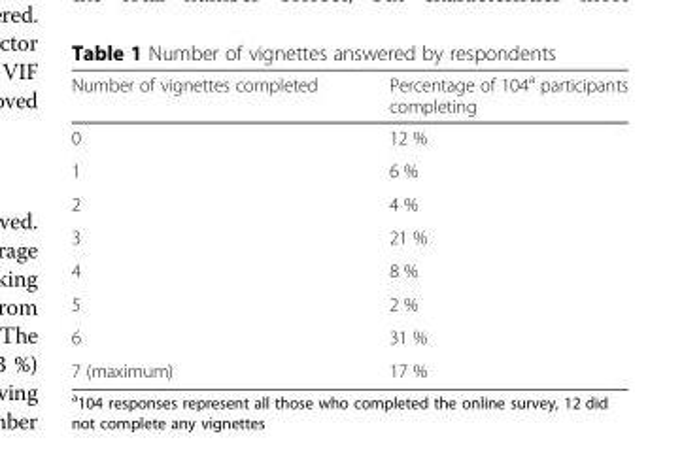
<table><thead><tr><td>Number of vignettes completed</td><td>Percentage of 104<sup>a</sup> participants completing</td></tr></thead><tbody><tr><td>0</td><td>12 %</td></tr><tr><td>1</td><td>6 %</td></tr><tr><td>2</td><td>4 %</td></tr><tr><td>3</td><td>21 %</td></tr><tr><td>4</td><td>8 %</td></tr><tr><td>5</td><td>2 %</td></tr><tr><td>6</td><td>31 %</td></tr><tr><td>7 (maximum)</td><td>17 %</td></tr></tbody></table>